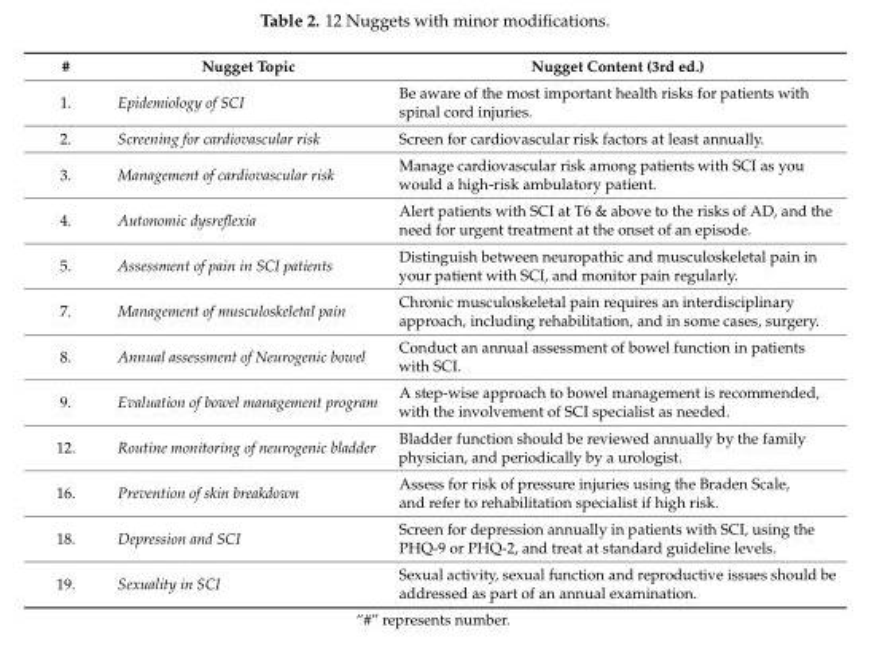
<table><thead><tr><td>#</td><td>Nugget Topic</td><td>Nugget Content (3rd ed.)</td></tr></thead><tbody><tr><td>1.</td><td>Epidemiology of SCI</td><td>Be aware of the most important health risks for patients with spinal cord injuries.</td></tr><tr><td>2.</td><td>Screening for cardiovascular risk</td><td>Screen for cardiovascular risk factors at least annually.</td></tr><tr><td>3.</td><td>Management of cardiovascular risk</td><td>Manage cardiovascular risk among patients with SCI as you would a high-risk ambulatory patient.</td></tr><tr><td>4.</td><td>Autonomic dysreflexia</td><td>Alert patients with SCI at T6 &amp; above to the risks of AD, and the need for urgent treatment at the onset of an episode.</td></tr><tr><td>5.</td><td>Assessment of pain in SCI patients</td><td>Distinguish between neuropathic and musculoskeletal pain in your patient with SCI, and monitor pain regularly.</td></tr><tr><td>7.</td><td>Management of musculoskeletal pain</td><td>Chronic musculoskeletal pain requires an interdisciplinary approach, including rehabilitation, and in some cases, surgery.</td></tr><tr><td>8.</td><td>Annual assessment of Neurogenic bowel</td><td>Conduct an annual assessment of bowel function in patients with SCI.</td></tr><tr><td>9.</td><td>Evaluation of bowel management program</td><td>A step-wise approach to bowel management is recommended, with the involvement of SCI specialist as needed.</td></tr><tr><td>12.</td><td>Routine monitoring of neurogenic bladder</td><td>Bladder function should be reviewed annually by the family physician, and periodically by a urologist.</td></tr><tr><td>16.</td><td>Prevention of skin breakdown</td><td>Assess for risk of pressure injuries using the Braden Scale, and refer to rehabilitation specialist if high risk.</td></tr><tr><td>18.</td><td>Depression and SCI</td><td>Screen for depression annually in patients with SCI, using the PHQ-9 or PHQ-2, and treat at standard guideline levels.</td></tr><tr><td>19.</td><td>Sexuality in SCI</td><td>Sexual activity, sexual function and reproductive issues should be addressed as part of an annual examination.</td></tr></tbody></table>